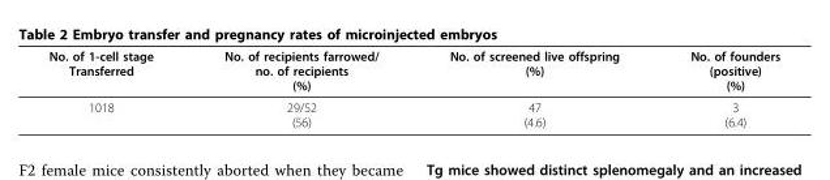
<table><thead><tr><td>No. of 1-cell stage Transferred</td><td>No. of recipients farrowed/ no. of recipients (%)</td><td>No. of screened live offspring (%)</td><td>No. of founders (positive) (%)</td></tr></thead><tbody><tr><td>1018</td><td>29/52 (56)</td><td>47 (4.6)</td><td>3 (6.4)</td></tr></tbody></table>